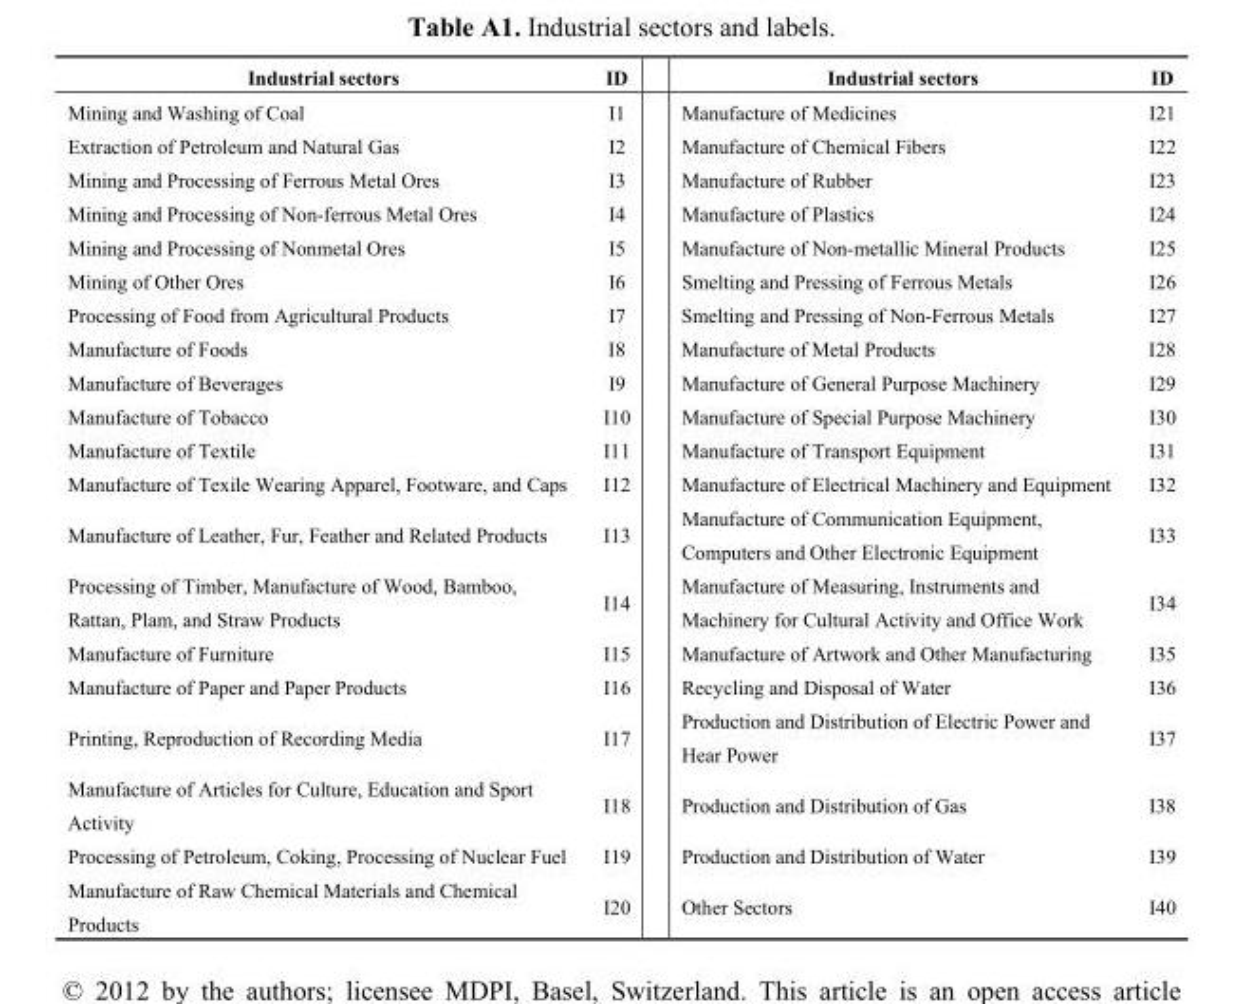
<table><thead><tr><td>Industrial sectors</td><td>ID</td><td>Industrial sectors</td><td>ID</td></tr></thead><tbody><tr><td>Mining and Washing of Coal</td><td>I1</td><td>Manufacture of Medicines</td><td>I21</td></tr><tr><td>Extraction of Petroleum and Natural Gas</td><td>I2</td><td>Manufacture of Chemical Fibers</td><td>I22</td></tr><tr><td>Mining and Processing of Ferrous Metal Ores</td><td>I3</td><td>Manufacture of Rubber</td><td>I23</td></tr><tr><td>Mining and Processing of Non-ferrous Metal Ores</td><td>I4</td><td>Manufacture of Plastics</td><td>I24</td></tr><tr><td>Mining and Processing of Nonmetal Ores</td><td>I5</td><td>Manufacture of Non-metallic Mineral Products</td><td>I25</td></tr><tr><td>Mining of Other Ores</td><td>I6</td><td>Smelting and Pressing of Ferrous Metals</td><td>I26</td></tr><tr><td>Processing of Food from Agricultural Products</td><td>I7</td><td>Smelting and Pressing of Non-Ferrous Metals</td><td>I27</td></tr><tr><td>Manufacture of Foods</td><td>I8</td><td>Manufacture of Metal Products</td><td>I28</td></tr><tr><td>Manufacture of Beverages</td><td>I9</td><td>Manufacture of General Purpose Machinery</td><td>I29</td></tr><tr><td>Manufacture of Tobacco</td><td>I10</td><td>Manufacture of Special Purpose Machinery</td><td>I30</td></tr><tr><td>Manufacture of Textile</td><td>I11</td><td>Manufacture of Transport Equipment</td><td>I31</td></tr><tr><td>Manufacture of Texile Wearing Apparel, Footware, and Caps</td><td>I12</td><td>Manufacture of Electrical Machinery and Equipment</td><td>I32</td></tr><tr><td>Manufacture of Leather, Fur, Feather and Related Products</td><td>I13</td><td>Manufacture of Communication Equipment, Computers and Other Electronic Equipment</td><td>I33</td></tr><tr><td>Processing of Timber, Manufacture of Wood, Bamboo, Rattan, Plam, and Straw Products</td><td>I14</td><td>Manufacture of Measuring, Instruments and Machinery for Cultural Activity and Office Work</td><td>I34</td></tr><tr><td>Manufacture of Furniture</td><td>I15</td><td>Manufacture of Artwork and Other Manufacturing</td><td>I35</td></tr><tr><td>Manufacture of Paper and Paper Products</td><td>I16</td><td>Recycling and Disposal of Water</td><td>I36</td></tr><tr><td>Printing, Reproduction of Recording Media</td><td>I17</td><td>Production and Distribution of Electric Power and Hear Power</td><td>I37</td></tr><tr><td>Manufacture of Articles for Culture, Education and Sport Activity</td><td>I18</td><td>Production and Distribution of Gas</td><td>I38</td></tr><tr><td>Processing of Petroleum, Coking, Processing of Nuclear Fuel</td><td>I19</td><td>Production and Distribution of Water</td><td>I39</td></tr><tr><td>Manufacture of Raw Chemical Materials and Chemical Products</td><td>I20</td><td>Other Sectors</td><td>I40</td></tr></tbody></table>